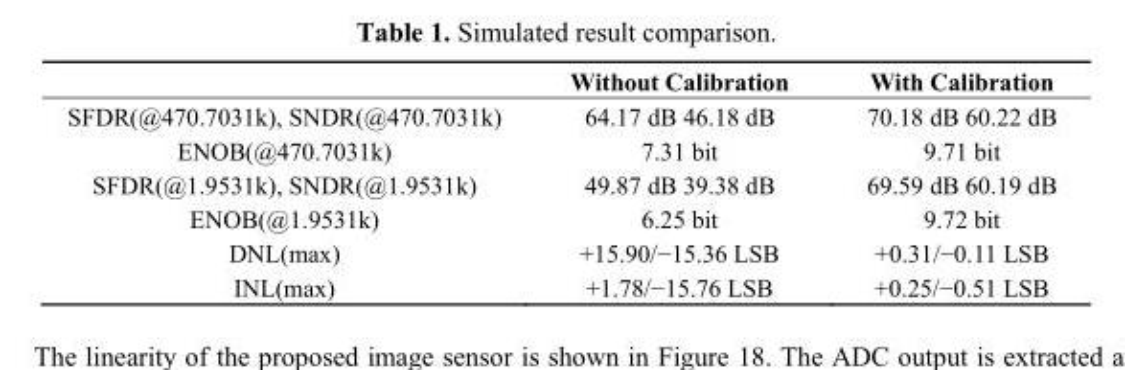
<table><thead><tr><td></td><td>Without Calibration</td><td>With Calibration</td></tr></thead><tbody><tr><td>SFDR(@470.7031k), SNDR(@470.7031k)</td><td>64.17 dB 46.18 dB</td><td>70.18 dB 60.22 dB</td></tr><tr><td>ENOB(@470.7031k)</td><td>7.31 bit</td><td>9.71 bit</td></tr><tr><td>SFDR(@1.9531k), SNDR(@1.9531k)</td><td>49.87 dB 39.38 dB</td><td>69.59 dB 60.19 dB</td></tr><tr><td>ENOB(@1.9531k)</td><td>6.25 bit</td><td>9.72 bit</td></tr><tr><td>DNL(max)</td><td>+15.90/−15.36 LSB</td><td>+0.31/−0.11 LSB</td></tr><tr><td>INL(max)</td><td>+1.78/−15.76 LSB</td><td>+0.25/−0.51 LSB</td></tr></tbody></table>